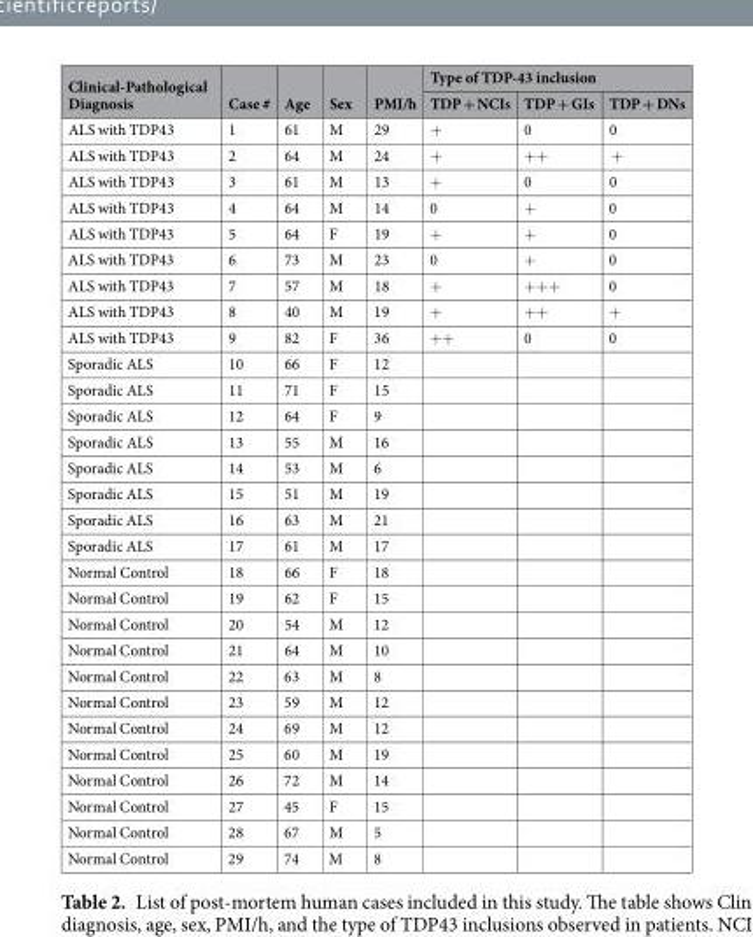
<table><thead><tr><td rowspan="2">Clinical-Pathological Diagnosis</td><td rowspan="2">Case #</td><td rowspan="2">Age</td><td rowspan="2">Sex</td><td rowspan="2">PMI/h</td><td colspan="3">Type of TDP-43 inclusion</td></tr><tr><td>TDP + NCIs</td><td>TDP + GIs</td><td>TDP + DNs</td></tr></thead><tbody><tr><td>ALS with TDP43</td><td>1</td><td>61</td><td>M</td><td>29</td><td>+</td><td>0</td><td>0</td></tr><tr><td>ALS with TDP43</td><td>2</td><td>64</td><td>M</td><td>24</td><td>+</td><td>++</td><td>+</td></tr><tr><td>ALS with TDP43</td><td>3</td><td>61</td><td>M</td><td>13</td><td>+</td><td>0</td><td>0</td></tr><tr><td>ALS with TDP43</td><td>4</td><td>64</td><td>M</td><td>14</td><td>0</td><td>+</td><td>0</td></tr><tr><td>ALS with TDP43</td><td>5</td><td>64</td><td>F</td><td>19</td><td>+</td><td>+</td><td>0</td></tr><tr><td>ALS with TDP43</td><td>6</td><td>73</td><td>M</td><td>23</td><td>0</td><td>+</td><td>0</td></tr><tr><td>ALS with TDP43</td><td>7</td><td>57</td><td>M</td><td>18</td><td>+</td><td>+++</td><td>0</td></tr><tr><td>ALS with TDP43</td><td>8</td><td>40</td><td>M</td><td>19</td><td>+</td><td>++</td><td>+</td></tr><tr><td>ALS with TDP43</td><td>9</td><td>82</td><td>F</td><td>36</td><td>++</td><td>0</td><td>0</td></tr><tr><td>Sporadic ALS</td><td>10</td><td>66</td><td>F</td><td>12</td><td></td><td></td><td></td></tr><tr><td>Sporadic ALS</td><td>11</td><td>71</td><td>F</td><td>15</td><td></td><td></td><td></td></tr><tr><td>Sporadic ALS</td><td>12</td><td>64</td><td>F</td><td>9</td><td></td><td></td><td></td></tr><tr><td>Sporadic ALS</td><td>13</td><td>55</td><td>M</td><td>16</td><td></td><td></td><td></td></tr><tr><td>Sporadic ALS</td><td>14</td><td>53</td><td>M</td><td>6</td><td></td><td></td><td></td></tr><tr><td>Sporadic ALS</td><td>15</td><td>51</td><td>M</td><td>19</td><td></td><td></td><td></td></tr><tr><td>Sporadic ALS</td><td>16</td><td>63</td><td>M</td><td>21</td><td></td><td></td><td></td></tr><tr><td>Sporadic ALS</td><td>17</td><td>61</td><td>M</td><td>17</td><td></td><td></td><td></td></tr><tr><td>Normal Control</td><td>18</td><td>66</td><td>F</td><td>18</td><td></td><td></td><td></td></tr><tr><td>Normal Control</td><td>19</td><td>62</td><td>F</td><td>15</td><td></td><td></td><td></td></tr><tr><td>Normal Control</td><td>20</td><td>54</td><td>M</td><td>12</td><td></td><td></td><td></td></tr><tr><td>Normal Control</td><td>21</td><td>64</td><td>M</td><td>10</td><td></td><td></td><td></td></tr><tr><td>Normal Control</td><td>22</td><td>63</td><td>M</td><td>8</td><td></td><td></td><td></td></tr><tr><td>Normal Control</td><td>23</td><td>59</td><td>M</td><td>12</td><td></td><td></td><td></td></tr><tr><td>Normal Control</td><td>24</td><td>69</td><td>M</td><td>12</td><td></td><td></td><td></td></tr><tr><td>Normal Control</td><td>25</td><td>60</td><td>M</td><td>19</td><td></td><td></td><td></td></tr><tr><td>Normal Control</td><td>26</td><td>72</td><td>M</td><td>14</td><td></td><td></td><td></td></tr><tr><td>Normal Control</td><td>27</td><td>45</td><td>F</td><td>15</td><td></td><td></td><td></td></tr><tr><td>Normal Control</td><td>28</td><td>67</td><td>M</td><td>5</td><td></td><td></td><td></td></tr><tr><td>Normal Control</td><td>29</td><td>74</td><td>M</td><td>8</td><td></td><td></td><td></td></tr></tbody></table>